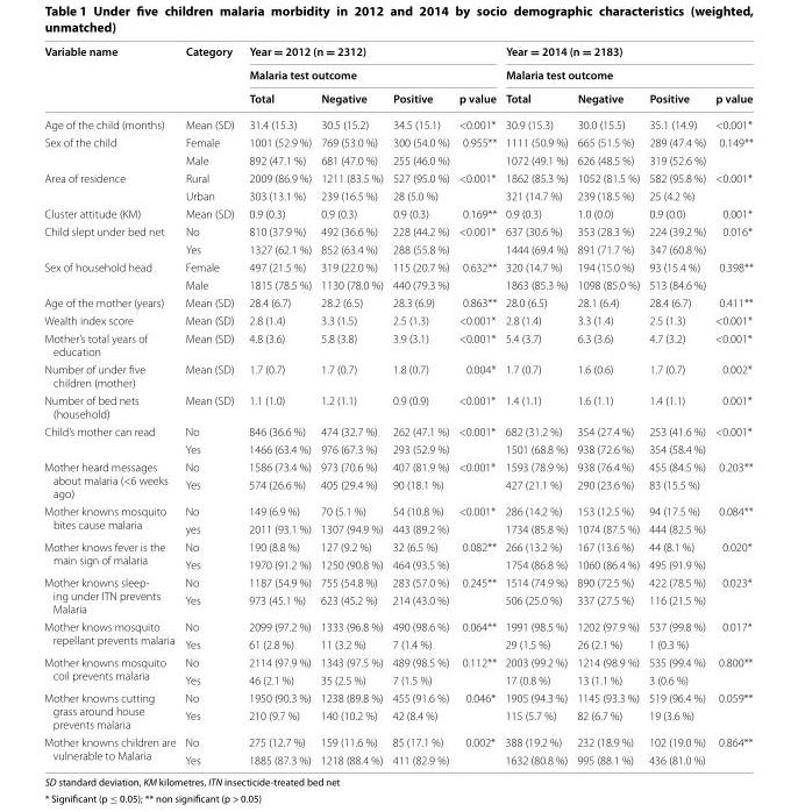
<table><thead><tr><td rowspan="3">Variable name</td><td rowspan="3">Category</td><td rowspan="2" colspan="4">Year = 2012 (n = 2312) Malaria test outcome</td><td rowspan="2" colspan="4">Year = 2014 (n = 2183) Malaria test outcome</td></tr><tr></tr><tr><td>Total</td><td>Negative</td><td>Positive</td><td>p value</td><td>Total</td><td>Negative</td><td>Positive</td><td>p value</td></tr></thead><tbody><tr><td>Age of the child (months)</td><td>Mean (SD)</td><td>31.4 (15.3)</td><td>30.5 (15.2)</td><td>34.5 (15.1)</td><td>&lt;0.001*</td><td>30.9 (15.3)</td><td>30.0 (15.5)</td><td>35.1 (14.9)</td><td>&lt;0.001*</td></tr><tr><td rowspan="2">Sex of the child</td><td>Female</td><td>1001 (52.9 %)</td><td>769 (53.0 %)</td><td>300 (54.0 %)</td><td rowspan="2">0.955**</td><td>1111 (50.9 %)</td><td>665 (51.5 %)</td><td>289 (47.4 %)</td><td rowspan="2">0.149**</td></tr><tr><td>Male</td><td>892 (47.1 %)</td><td>681 (47.0 %)</td><td>255 (46.0 %)</td><td>1072 (49.1 %)</td><td>626 (48.5 %)</td><td>319 (52.6 %)</td></tr><tr><td rowspan="2">Area of residence</td><td>Rural</td><td>2009 (86.9 %)</td><td>1211 (83.5 %)</td><td>527 (95.0 %)</td><td rowspan="2">&lt;0.001*</td><td>1862 (85.3 %)</td><td>1052 (81.5 %)</td><td>582 (95.8 %)</td><td rowspan="2">&lt;0.001*</td></tr><tr><td>Urban</td><td>303 (13.1 %)</td><td>239 (16.5 %)</td><td>28 (5.0 %)</td><td>321 (14.7 %)</td><td>239 (18.5 %)</td><td>25 (4.2 %)</td></tr><tr><td>Cluster attitude (KM)</td><td>Mean (SD)</td><td>0.9 (0.3)</td><td>0.9 (0.3)</td><td>0.9 (0.3)</td><td>0.169**</td><td>0.9 (0.3)</td><td>1.0 (0.0)</td><td>0.9 (0.0)</td><td>0.001*</td></tr><tr><td rowspan="2">Child slept under bed net</td><td>No</td><td>810 (37.9 %)</td><td>492 (36.6 %)</td><td>228 (44.2 %)</td><td rowspan="2">&lt;0.001*</td><td>637 (30.6 %)</td><td>353 (28.3 %)</td><td>224 (39.2 %)</td><td rowspan="2">0.016*</td></tr><tr><td>Yes</td><td>1327 (62.1 %)</td><td>852 (63.4 %)</td><td>288 (55.8 %)</td><td>1444 (69.4 %)</td><td>891 (71.7 %)</td><td>347 (60.8 %)</td></tr><tr><td rowspan="2">Sex of household head</td><td>Female</td><td>497 (21.5 %)</td><td>319 (22.0 %)</td><td>115 (20.7 %)</td><td rowspan="2">0.632**</td><td>320 (14.7 %)</td><td>194 (15.0 %)</td><td>93 (15.4 %)</td><td rowspan="2">0.398**</td></tr><tr><td>Male</td><td>1815 (78.5 %)</td><td>1130 (78.0 %)</td><td>440 (79.3 %)</td><td>1863 (85.3 %)</td><td>1098 (85.0 %)</td><td>513 (84.6 %)</td></tr><tr><td>Age of the mother (years)</td><td>Mean (SD)</td><td>28.4 (6.7)</td><td>28.2 (6.5)</td><td>28.3 (6.9)</td><td>0.863**</td><td>28.0 (6.5)</td><td>28.1 (6.4)</td><td>28.4 (6.7)</td><td>0.411**</td></tr><tr><td>Wealth index score</td><td>Mean (SD)</td><td>2.8 (1.4)</td><td>3.3 (1.5)</td><td>2.5 (1.3)</td><td>&lt;0.001*</td><td>2.8 (1.4)</td><td>3.3 (1.4)</td><td>2.5 (1.3)</td><td>&lt;0.001*</td></tr><tr><td>Mother’s total years of education</td><td>Mean (SD)</td><td>4.8 (3.6)</td><td>5.8 (3.8)</td><td>3.9 (3.1)</td><td>&lt;0.001*</td><td>5.4 (3.7)</td><td>6.3 (3.6)</td><td>4.7 (3.2)</td><td>&lt;0.001*</td></tr><tr><td>Number of under five children (mother)</td><td>Mean (SD)</td><td>1.7 (0.7)</td><td>1.7 (0.7)</td><td>1.8 (0.7)</td><td>0.004*</td><td>1.7 (0.7)</td><td>1.6 (0.6)</td><td>1.7 (0.7)</td><td>0.002*</td></tr><tr><td>Number of bed nets (household)</td><td>Mean (SD)</td><td>1.1 (1.0)</td><td>1.2 (1.1)</td><td>0.9 (0.9)</td><td>&lt;0.001*</td><td>1.4 (1.1)</td><td>1.6 (1.1)</td><td>1.4 (1.1)</td><td>0.001*</td></tr><tr><td rowspan="2">Child’s mother can read</td><td>No</td><td>846 (36.6 %)</td><td>474 (32.7 %)</td><td>262 (47.1 %)</td><td rowspan="2">&lt;0.001*</td><td>682 (31.2 %)</td><td>354 (27.4 %)</td><td>253 (41.6 %)</td><td rowspan="2">&lt;0.001*</td></tr><tr><td>Yes</td><td>1466 (63.4 %)</td><td>976 (67.3 %)</td><td>293 (52.9 %)</td><td>1501 (68.8 %)</td><td>938 (72.6 %)</td><td>354 (58.4 %)</td></tr><tr><td rowspan="2">Mother heard messages about malaria (&lt;6 weeks ago)</td><td>No</td><td>1586 (73.4 %)</td><td>973 (70.6 %)</td><td>407 (81.9 %)</td><td rowspan="2">&lt;0.001*</td><td>1593 (78.9 %)</td><td>938 (76.4 %)</td><td>455 (84.5 %)</td><td rowspan="2">0.203**</td></tr><tr><td>Yes</td><td>574 (26.6 %)</td><td>405 (29.4 %)</td><td>90 (18.1 %)</td><td>427 (21.1 %)</td><td>290 (23.6 %)</td><td>83 (15.5 %)</td></tr><tr><td rowspan="2">Mother knowns mosquito bites cause malaria</td><td>No</td><td>149 (6.9 %)</td><td>70 (5.1 %)</td><td>54 (10.8 %)</td><td rowspan="2">&lt;0.001*</td><td>286 (14.2 %)</td><td>153 (12.5 %)</td><td>94 (17.5 %)</td><td rowspan="2">0.084**</td></tr><tr><td>yes</td><td>2011 (93.1 %)</td><td>1307 (94.9 %)</td><td>443 (89.2 %)</td><td>1734 (85.8 %)</td><td>1074 (87.5 %)</td><td>444 (82.5 %)</td></tr><tr><td rowspan="2">Mother knows fever is the main sign of malaria</td><td>No</td><td>190 (8.8 %)</td><td>127 (9.2 %)</td><td>32 (6.5 %)</td><td rowspan="2">0.082**</td><td>266 (13.2 %)</td><td>167 (13.6 %)</td><td>44 (8.1 %)</td><td rowspan="2">0.020*</td></tr><tr><td>Yes</td><td>1970 (91.2 %)</td><td>1250 (90.8 %)</td><td>464 (93.5 %)</td><td>1754 (86.8 %)</td><td>1060 (86.4 %)</td><td>495 (91.9 %)</td></tr><tr><td rowspan="2">Mother knowns sleep- ing under ITN prevents Malaria</td><td>No</td><td>1187 (54.9 %)</td><td>755 (54.8 %)</td><td>283 (57.0 %)</td><td rowspan="2">0.245**</td><td>1514 (74.9 %)</td><td>890 (72.5 %)</td><td>422 (78.5 %)</td><td rowspan="2">0.023*</td></tr><tr><td>Yes</td><td>973 (45.1 %)</td><td>623 (45.2 %)</td><td>214 (43.0 %)</td><td>506 (25.0 %)</td><td>337 (27.5 %)</td><td>116 (21.5 %)</td></tr><tr><td rowspan="2">Mother knows mosquito repellant prevents malaria</td><td>No</td><td>2099 (97.2 %)</td><td>1333 (96.8 %)</td><td>490 (98.6 %)</td><td rowspan="2">0.064**</td><td>1991 (98.5 %)</td><td>1202 (97.9 %)</td><td>537 (99.8 %)</td><td rowspan="2">0.017*</td></tr><tr><td>Yes</td><td>61 (2.8 %)</td><td>11 (3.2 %)</td><td>7 (1.4 %)</td><td>29 (1.5 %)</td><td>26 (2.1 %)</td><td>1 (0.3 %)</td></tr><tr><td rowspan="2">Mother knowns mosquito coil prevents malaria</td><td>No</td><td>2114 (97.9 %)</td><td>1343 (97.5 %)</td><td>489 (98.5 %)</td><td rowspan="2">0.112**</td><td>2003 (99.2 %)</td><td>1214 (98.9 %)</td><td>535 (99.4 %)</td><td rowspan="2">0.800**</td></tr><tr><td>Yes</td><td>46 (2.1 %)</td><td>35 (2.5 %)</td><td>7 (1.5 %)</td><td>17 (0.8 %)</td><td>13 (1.1 %)</td><td>3 (0.6 %)</td></tr><tr><td rowspan="2">Mother knowns cutting grass around house prevents malaria</td><td>No</td><td>1950 (90.3 %)</td><td>1238 (89.8 %)</td><td>455 (91.6 %)</td><td rowspan="2">0.046*</td><td>1905 (94.3 %)</td><td>1145 (93.3 %)</td><td>519 (96.4 %)</td><td rowspan="2">0.059**</td></tr><tr><td>Yes</td><td>210 (9.7 %)</td><td>140 (10.2 %)</td><td>42 (8.4 %)</td><td>115 (5.7 %)</td><td>82 (6.7 %)</td><td>19 (3.6 %)</td></tr><tr><td rowspan="2">Mother knowns children are vulnerable to Malaria</td><td>No</td><td>275 (12.7 %)</td><td>159 (11.6 %)</td><td>85 (17.1 %)</td><td rowspan="2">0.002*</td><td>388 (19.2 %)</td><td>232 (18.9 %)</td><td>102 (19.0 %)</td><td rowspan="2">0.864**</td></tr><tr><td>Yes</td><td>1885 (87.3 %)</td><td>1218 (88.4 %)</td><td>411 (82.9 %)</td><td>1632 (80.8 %)</td><td>995 (88.1 %)</td><td>436 (81.0 %)</td></tr></tbody></table>